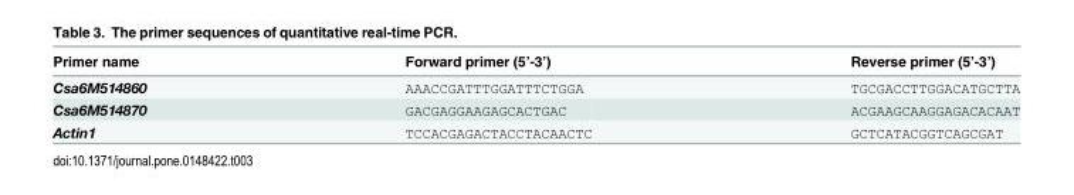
<table><thead><tr><td>Primer name</td><td>Forward primer (5’-3’)</td><td>Reverse primer (5’-3’)</td></tr></thead><tbody><tr><td>Csa6M514860</td><td>AAACCGATTTGGATTTCTGGA</td><td>TGCGACCTTGGACATGCTTA</td></tr><tr><td>Csa6M514870</td><td>GACGAGGAAGAGCACTGAC</td><td>ACGAAGCAAGGAGACACAAT</td></tr><tr><td>Actin1</td><td>TCCACGAGACTACCTACAACTC</td><td>GCTCATACGGTCAGCGAT</td></tr></tbody></table>